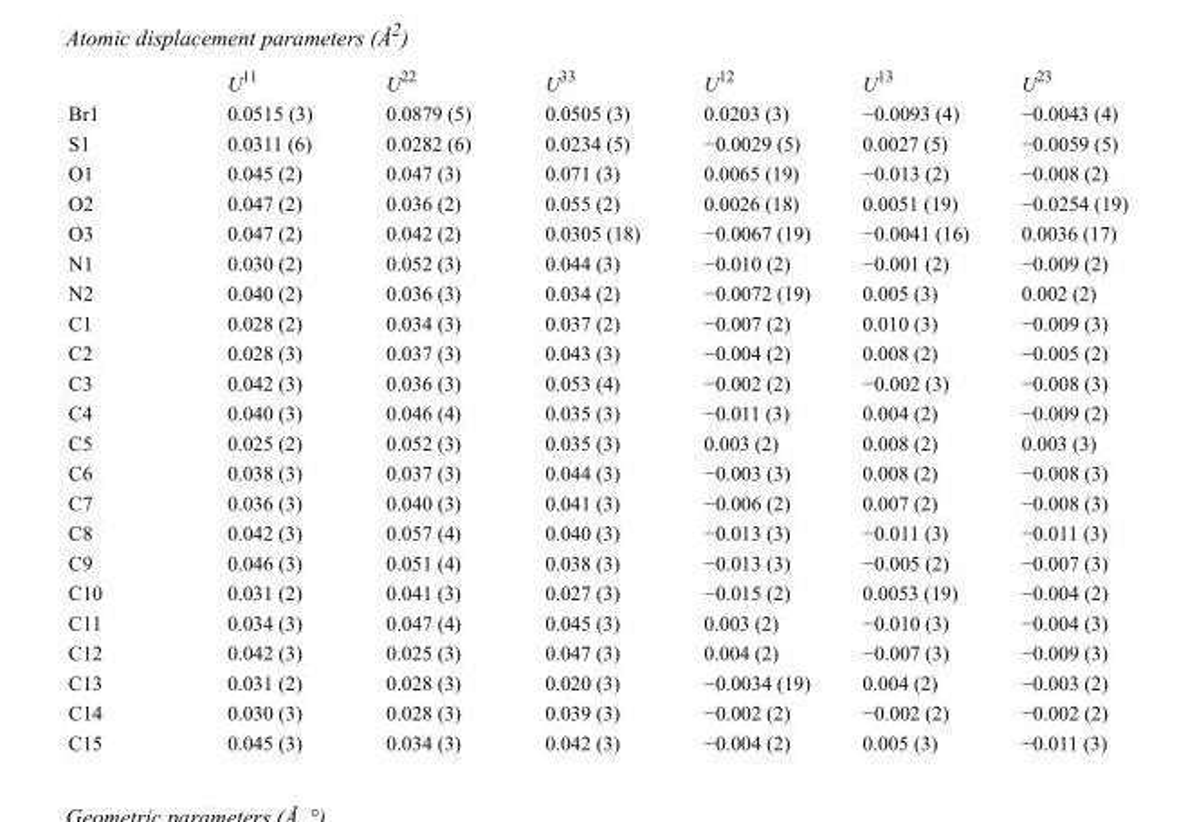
<table><thead><tr><td></td><td>U<sup>11</sup></td><td>U<sup>22</sup></td><td>U<sup>33</sup></td><td>U<sup>12</sup></td><td>U<sup>13</sup></td><td>U<sup>23</sup></td></tr></thead><tbody><tr><td>Br1</td><td>0.0515 (3)</td><td>0.0879 (5)</td><td>0.0505 (3)</td><td>0.0203 (3)</td><td>−0.0093 (4)</td><td>−0.0043 (4)</td></tr><tr><td>S1</td><td>0.0311 (6)</td><td>0.0282 (6)</td><td>0.0234 (5)</td><td>−0.0029 (5)</td><td>0.0027 (5)</td><td>−0.0059 (5)</td></tr><tr><td>O1</td><td>0.045 (2)</td><td>0.047 (3)</td><td>0.071 (3)</td><td>0.0065 (19)</td><td>−0.013 (2)</td><td>−0.008 (2)</td></tr><tr><td>O2</td><td>0.047 (2)</td><td>0.036 (2)</td><td>0.055 (2)</td><td>0.0026 (18)</td><td>0.0051 (19)</td><td>−0.0254 (19)</td></tr><tr><td>O3</td><td>0.047 (2)</td><td>0.042 (2)</td><td>0.0305 (18)</td><td>−0.0067 (19)</td><td>−0.0041 (16)</td><td>0.0036 (17)</td></tr><tr><td>N1</td><td>0.030 (2)</td><td>0.052 (3)</td><td>0.044 (3)</td><td>−0.010 (2)</td><td>−0.001 (2)</td><td>−0.009 (2)</td></tr><tr><td>N2</td><td>0.040 (2)</td><td>0.036 (3)</td><td>0.034 (2)</td><td>−0.0072 (19)</td><td>0.005 (3)</td><td>0.002 (2)</td></tr><tr><td>C1</td><td>0.028 (2)</td><td>0.034 (3)</td><td>0.037 (2)</td><td>−0.007 (2)</td><td>0.010 (3)</td><td>−0.009 (3)</td></tr><tr><td>C2</td><td>0.028 (3)</td><td>0.037 (3)</td><td>0.043 (3)</td><td>−0.004 (2)</td><td>0.008 (2)</td><td>−0.005 (2)</td></tr><tr><td>C3</td><td>0.042 (3)</td><td>0.036 (3)</td><td>0.053 (4)</td><td>−0.002 (2)</td><td>−0.002 (3)</td><td>−0.008 (3)</td></tr><tr><td>C4</td><td>0.040 (3)</td><td>0.046 (4)</td><td>0.035 (3)</td><td>−0.011 (3)</td><td>0.004 (2)</td><td>−0.009 (2)</td></tr><tr><td>C5</td><td>0.025 (2)</td><td>0.052 (3)</td><td>0.035 (3)</td><td>0.003 (2)</td><td>0.008 (2)</td><td>0.003 (3)</td></tr><tr><td>C6</td><td>0.038 (3)</td><td>0.037 (3)</td><td>0.044 (3)</td><td>−0.003 (3)</td><td>0.008 (2)</td><td>−0.008 (3)</td></tr><tr><td>C7</td><td>0.036 (3)</td><td>0.040 (3)</td><td>0.041 (3)</td><td>−0.006 (2)</td><td>0.007 (2)</td><td>−0.008 (3)</td></tr><tr><td>C8</td><td>0.042 (3)</td><td>0.057 (4)</td><td>0.040 (3)</td><td>−0.013 (3)</td><td>−0.011 (3)</td><td>−0.011 (3)</td></tr><tr><td>C9</td><td>0.046 (3)</td><td>0.051 (4)</td><td>0.038 (3)</td><td>−0.013 (3)</td><td>−0.005 (2)</td><td>−0.007 (3)</td></tr><tr><td>C10</td><td>0.031 (2)</td><td>0.041 (3)</td><td>0.027 (3)</td><td>−0.015 (2)</td><td>0.0053 (19)</td><td>−0.004 (2)</td></tr><tr><td>C11</td><td>0.034 (3)</td><td>0.047 (4)</td><td>0.045 (3)</td><td>0.003 (2)</td><td>−0.010 (3)</td><td>−0.004 (3)</td></tr><tr><td>C12</td><td>0.042 (3)</td><td>0.025 (3)</td><td>0.047 (3)</td><td>0.004 (2)</td><td>−0.007 (3)</td><td>−0.009 (3)</td></tr><tr><td>C13</td><td>0.031 (2)</td><td>0.028 (3)</td><td>0.020 (3)</td><td>−0.0034 (19)</td><td>0.004 (2)</td><td>−0.003 (2)</td></tr><tr><td>C14</td><td>0.030 (3)</td><td>0.028 (3)</td><td>0.039 (3)</td><td>−0.002 (2)</td><td>−0.002 (2)</td><td>−0.002 (2)</td></tr><tr><td>C15</td><td>0.045 (3)</td><td>0.034 (3)</td><td>0.042 (3)</td><td>−0.004 (2)</td><td>0.005 (3)</td><td>−0.011 (3)</td></tr></tbody></table>